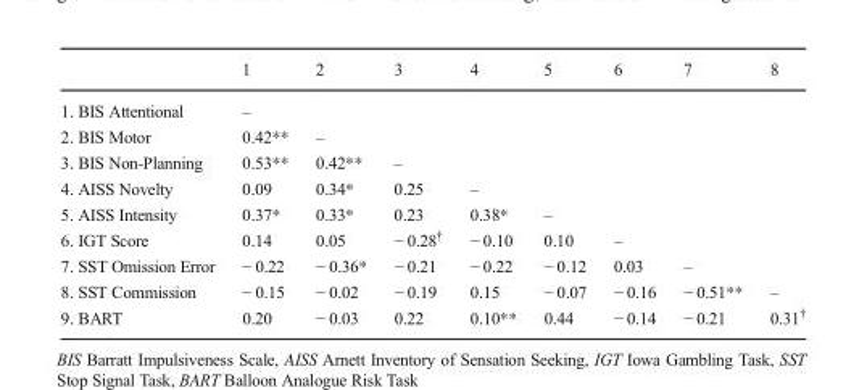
<table><thead><tr><td></td><td>1</td><td>2</td><td>3</td><td>4</td><td>5</td><td>6</td><td>7</td><td>8</td></tr></thead><tbody><tr><td>1. BIS Attentional</td><td>–</td><td></td><td></td><td></td><td></td><td></td><td></td><td></td></tr><tr><td>2. BIS Motor</td><td>0.42**</td><td>–</td><td></td><td></td><td></td><td></td><td></td><td></td></tr><tr><td>3. BIS Non-Planning</td><td>0.53**</td><td>0.42**</td><td>–</td><td></td><td></td><td></td><td></td><td></td></tr><tr><td>4. AISS Novelty</td><td>0.09</td><td>0.34*</td><td>0.25</td><td>–</td><td></td><td></td><td></td><td></td></tr><tr><td>5. AISS Intensity</td><td>0.37*</td><td>0.33*</td><td>0.23</td><td>0.38*</td><td>–</td><td></td><td></td><td></td></tr><tr><td>6. IGT Score</td><td>0.14</td><td>0.05</td><td>− 0.28<sup>†</sup></td><td>− 0.10</td><td>0.10</td><td>–</td><td></td><td></td></tr><tr><td>7. SST Omission Error</td><td>− 0.22</td><td>− 0.36*</td><td>− 0.21</td><td>− 0.22</td><td>− 0.12</td><td>0.03</td><td>–</td><td></td></tr><tr><td>8. SST Commission</td><td>− 0.15</td><td>− 0.02</td><td>− 0.19</td><td>0.15</td><td>− 0.07</td><td>− 0.16</td><td>− 0.51**</td><td>–</td></tr><tr><td>9. BART</td><td>0.20</td><td>− 0.03</td><td>0.22</td><td>0.10**</td><td>0.44</td><td>− 0.14</td><td>− 0.21</td><td>0.31<sup>†</sup></td></tr></tbody></table>